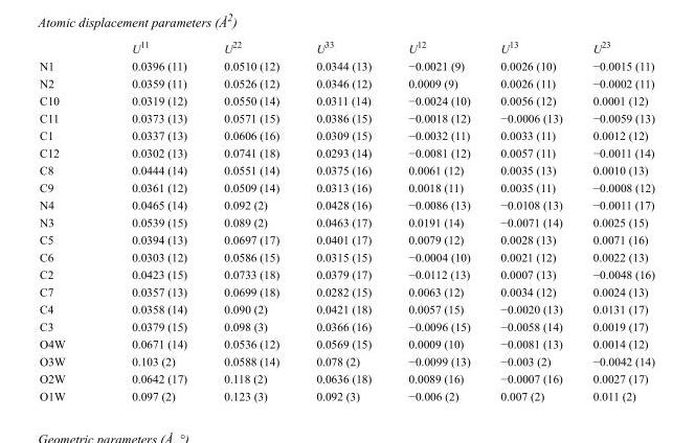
<table><thead><tr><td></td><td>U<sup>11</sup></td><td>U<sup>22</sup></td><td>U<sup>33</sup></td><td>U<sup>12</sup></td><td>U<sup>13</sup></td><td>U<sup>23</sup></td></tr></thead><tbody><tr><td>N1</td><td>0.0396 (11)</td><td>0.0510 (12)</td><td>0.0344 (13)</td><td>−0.0021 (9)</td><td>0.0026 (10)</td><td>−0.0015 (11)</td></tr><tr><td>N2</td><td>0.0359 (11)</td><td>0.0526 (12)</td><td>0.0346 (12)</td><td>0.0009 (9)</td><td>0.0026 (11)</td><td>−0.0002 (11)</td></tr><tr><td>C10</td><td>0.0319 (12)</td><td>0.0550 (14)</td><td>0.0311 (14)</td><td>−0.0024 (10)</td><td>0.0056 (12)</td><td>0.0001 (12)</td></tr><tr><td>C11</td><td>0.0373 (13)</td><td>0.0571 (15)</td><td>0.0386 (15)</td><td>−0.0018 (12)</td><td>−0.0006 (13)</td><td>−0.0059 (13)</td></tr><tr><td>C1</td><td>0.0337 (13)</td><td>0.0606 (16)</td><td>0.0309 (15)</td><td>−0.0032 (11)</td><td>0.0033 (11)</td><td>0.0012 (12)</td></tr><tr><td>C12</td><td>0.0302 (13)</td><td>0.0741 (18)</td><td>0.0293 (14)</td><td>−0.0081 (12)</td><td>0.0057 (11)</td><td>−0.0011 (14)</td></tr><tr><td>C8</td><td>0.0444 (14)</td><td>0.0551 (14)</td><td>0.0375 (16)</td><td>0.0061 (12)</td><td>0.0035 (13)</td><td>0.0010 (13)</td></tr><tr><td>C9</td><td>0.0361 (12)</td><td>0.0509 (14)</td><td>0.0313 (16)</td><td>0.0018 (11)</td><td>0.0035 (11)</td><td>−0.0008 (12)</td></tr><tr><td>N4</td><td>0.0465 (14)</td><td>0.092 (2)</td><td>0.0428 (16)</td><td>−0.0086 (13)</td><td>−0.0108 (13)</td><td>−0.0011 (17)</td></tr><tr><td>N3</td><td>0.0539 (15)</td><td>0.089 (2)</td><td>0.0463 (17)</td><td>0.0191 (14)</td><td>−0.0071 (14)</td><td>0.0025 (15)</td></tr><tr><td>C5</td><td>0.0394 (13)</td><td>0.0697 (17)</td><td>0.0401 (17)</td><td>0.0079 (12)</td><td>0.0028 (13)</td><td>0.0071 (16)</td></tr><tr><td>C6</td><td>0.0303 (12)</td><td>0.0586 (15)</td><td>0.0315 (15)</td><td>−0.0004 (10)</td><td>0.0021 (12)</td><td>0.0022 (13)</td></tr><tr><td>C2</td><td>0.0423 (15)</td><td>0.0733 (18)</td><td>0.0379 (17)</td><td>−0.0112 (13)</td><td>0.0007 (13)</td><td>−0.0048 (16)</td></tr><tr><td>C7</td><td>0.0357 (13)</td><td>0.0699 (18)</td><td>0.0282 (15)</td><td>0.0063 (12)</td><td>0.0034 (12)</td><td>0.0024 (13)</td></tr><tr><td>C4</td><td>0.0358 (14)</td><td>0.090 (2)</td><td>0.0421 (18)</td><td>0.0057 (15)</td><td>−0.0020 (13)</td><td>0.0131 (17)</td></tr><tr><td>C3</td><td>0.0379 (15)</td><td>0.098 (3)</td><td>0.0366 (16)</td><td>−0.0096 (15)</td><td>−0.0058 (14)</td><td>0.0019 (17)</td></tr><tr><td>O4W</td><td>0.0671 (14)</td><td>0.0536 (12)</td><td>0.0569 (15)</td><td>0.0009 (10)</td><td>−0.0081 (13)</td><td>0.0014 (12)</td></tr><tr><td>O3W</td><td>0.103 (2)</td><td>0.0588 (14)</td><td>0.078 (2)</td><td>−0.0099 (13)</td><td>−0.003 (2)</td><td>−0.0042 (14)</td></tr><tr><td>O2W</td><td>0.0642 (17)</td><td>0.118 (2)</td><td>0.0636 (18)</td><td>0.0089 (16)</td><td>−0.0007 (16)</td><td>0.0027 (17)</td></tr><tr><td>O1W</td><td>0.097 (2)</td><td>0.123 (3)</td><td>0.092 (3)</td><td>−0.006 (2)</td><td>0.007 (2)</td><td>0.011 (2)</td></tr></tbody></table>